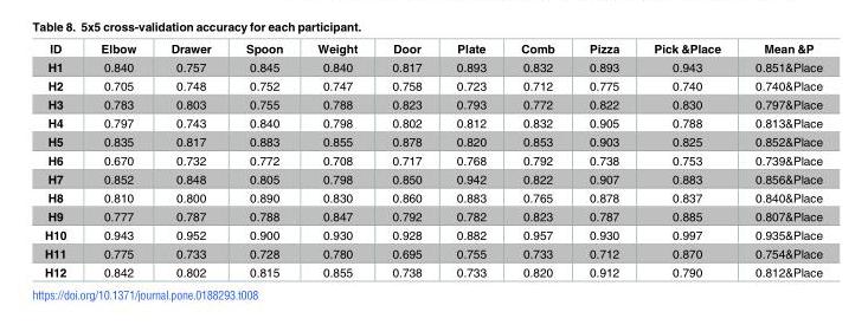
<table><thead><tr><td>ID</td><td>Elbow</td><td>Drawer</td><td>Spoon</td><td>Weight</td><td>Door</td><td>Plate</td><td>Comb</td><td>Pizza</td><td>Pick &amp;Place</td><td>Mean &amp;P</td></tr></thead><tbody><tr><td>H1</td><td>0.840</td><td>0.757</td><td>0.845</td><td>0.840</td><td>0.817</td><td>0.893</td><td>0.832</td><td>0.893</td><td>0.943</td><td>0.851&amp;Place</td></tr><tr><td>H2</td><td>0.705</td><td>0.748</td><td>0.752</td><td>0.747</td><td>0.758</td><td>0.723</td><td>0.712</td><td>0.775</td><td>0.740</td><td>0.740&amp;Place</td></tr><tr><td>H3</td><td>0.783</td><td>0.803</td><td>0.755</td><td>0.788</td><td>0.823</td><td>0.793</td><td>0.772</td><td>0.822</td><td>0.830</td><td>0.797&amp;Place</td></tr><tr><td>H4</td><td>0.797</td><td>0.743</td><td>0.840</td><td>0.798</td><td>0.802</td><td>0.812</td><td>0.832</td><td>0.905</td><td>0.788</td><td>0.813&amp;Place</td></tr><tr><td>H5</td><td>0.835</td><td>0.817</td><td>0.883</td><td>0.855</td><td>0.878</td><td>0.820</td><td>0.853</td><td>0.903</td><td>0.825</td><td>0.852&amp;Place</td></tr><tr><td>H6</td><td>0.670</td><td>0.732</td><td>0.772</td><td>0.708</td><td>0.717</td><td>0.768</td><td>0.792</td><td>0.738</td><td>0.753</td><td>0.739&amp;Place</td></tr><tr><td>H7</td><td>0.852</td><td>0.848</td><td>0.805</td><td>0.798</td><td>0.850</td><td>0.942</td><td>0.822</td><td>0.907</td><td>0.883</td><td>0.856&amp;Place</td></tr><tr><td>H8</td><td>0.810</td><td>0.800</td><td>0.890</td><td>0.830</td><td>0.860</td><td>0.883</td><td>0.765</td><td>0.878</td><td>0.837</td><td>0.840&amp;Place</td></tr><tr><td>H9</td><td>0.777</td><td>0.787</td><td>0.788</td><td>0.847</td><td>0.792</td><td>0.782</td><td>0.823</td><td>0.787</td><td>0.885</td><td>0.807&amp;Place</td></tr><tr><td>H10</td><td>0.943</td><td>0.952</td><td>0.900</td><td>0.930</td><td>0.928</td><td>0.882</td><td>0.957</td><td>0.930</td><td>0.997</td><td>0.935&amp;Place</td></tr><tr><td>H11</td><td>0.775</td><td>0.733</td><td>0.728</td><td>0.780</td><td>0.695</td><td>0.755</td><td>0.733</td><td>0.712</td><td>0.870</td><td>0.754&amp;Place</td></tr><tr><td>H12</td><td>0.842</td><td>0.802</td><td>0.815</td><td>0.855</td><td>0.738</td><td>0.733</td><td>0.820</td><td>0.912</td><td>0.790</td><td>0.812&amp;Place</td></tr></tbody></table>